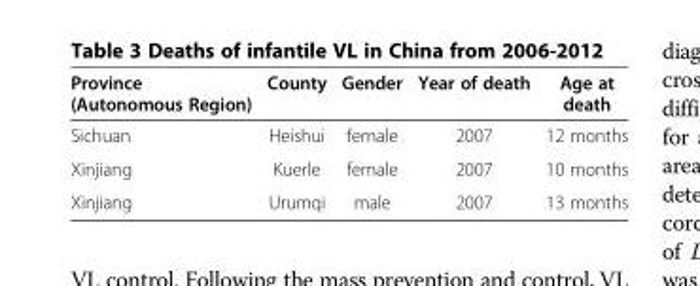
<table><thead><tr><td>Province (Autonomous Region)</td><td>County</td><td>Gender</td><td>Year of death</td><td>Age at death</td></tr></thead><tbody><tr><td>Sichuan</td><td>Heishui</td><td>female</td><td>2007</td><td>12 months</td></tr><tr><td>Xinjiang</td><td>Kuerle</td><td>female</td><td>2007</td><td>10 months</td></tr><tr><td>Xinjiang</td><td>Urumqi</td><td>male</td><td>2007</td><td>13 months</td></tr></tbody></table>